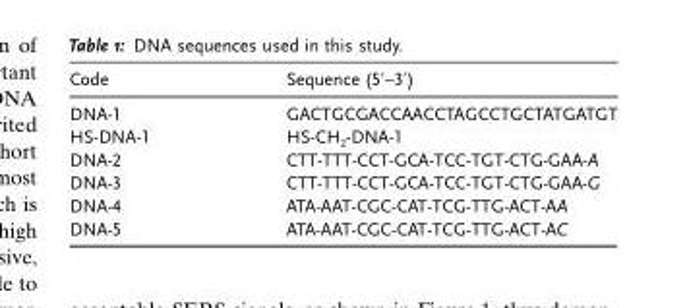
<table><thead><tr><td>Code</td><td>Sequence (5’–3’)</td></tr></thead><tbody><tr><td>DNA-1</td><td>GACTGCGACCAACCTAGCCTGCTATGATGT</td></tr><tr><td>HS-DNA-1</td><td>HS-CH<sub>2</sub>-DNA-1</td></tr><tr><td>DNA-2</td><td>CTT-TTT-CCT-GCA-TCC-TGT-CTG-GAA-A</td></tr><tr><td>DNA-3</td><td>CTT-TTT-CCT-GCA-TCC-TGT-CTG-GAA-G</td></tr><tr><td>DNA-4</td><td>ATA-AAT-CGC-CAT-TCG-TTG-ACT-AA</td></tr><tr><td>DNA-5</td><td>ATA-AAT-CGC-CAT-TCG-TTG-ACT-AC</td></tr></tbody></table>